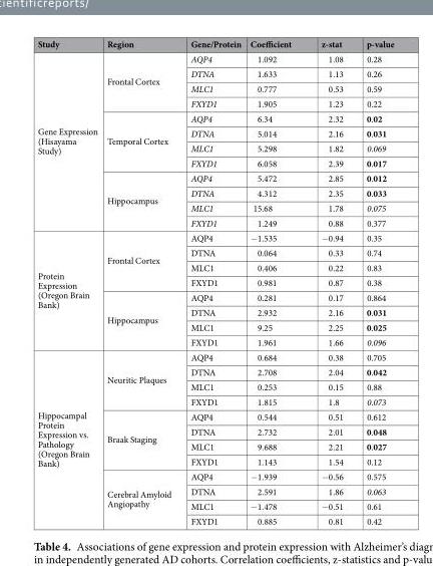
<table><thead><tr><td>Study</td><td>Region</td><td>Gene/Protein</td><td>Coefficient</td><td>z-stat</td><td>p-value</td></tr></thead><tbody><tr><td rowspan="12">Gene Expression (Hisayama Study)</td><td rowspan="4">Frontal Cortex</td><td>AQP4</td><td>1.092</td><td>1.08</td><td>0.28</td></tr><tr><td>DTNA</td><td>1.633</td><td>1.13</td><td>0.26</td></tr><tr><td>MLC1</td><td>0.777</td><td>0.53</td><td>0.59</td></tr><tr><td>FXYD1</td><td>1.905</td><td>1.23</td><td>0.22</td></tr><tr><td rowspan="4">Temporal Cortex</td><td>AQP4</td><td>6.34</td><td>2.32</td><td>0.02</td></tr><tr><td>DTNA</td><td>5.014</td><td>2.16</td><td>0.031</td></tr><tr><td>MLC1</td><td>5.298</td><td>1.82</td><td>0.069</td></tr><tr><td>FXYD1</td><td>6.058</td><td>2.39</td><td>0.017</td></tr><tr><td rowspan="4">Hippocampus</td><td>AQP4</td><td>5.472</td><td>2.85</td><td>0.012</td></tr><tr><td>DTNA</td><td>4.312</td><td>2.35</td><td>0.033</td></tr><tr><td>MLC1</td><td>15.68</td><td>1.78</td><td>0.075</td></tr><tr><td>FXYD1</td><td>1.249</td><td>0.88</td><td>0.377</td></tr><tr><td rowspan="8">Protein Expression (Oregon Brain Bank)</td><td rowspan="4">Frontal Cortex</td><td>AQP4</td><td>−1.535</td><td>−0.94</td><td>0.35</td></tr><tr><td>DTNA</td><td>0.064</td><td>0.33</td><td>0.74</td></tr><tr><td>MLC1</td><td>0.406</td><td>0.22</td><td>0.83</td></tr><tr><td>FXYD1</td><td>0.981</td><td>0.87</td><td>0.38</td></tr><tr><td rowspan="4">Hippocampus</td><td>AQP4</td><td>0.281</td><td>0.17</td><td>0.864</td></tr><tr><td>DTNA</td><td>2.932</td><td>2.16</td><td>0.031</td></tr><tr><td>MLC1</td><td>9.25</td><td>2.25</td><td>0.025</td></tr><tr><td>FXYD1</td><td>1.961</td><td>1.66</td><td>0.096</td></tr><tr><td rowspan="12">Hippocampal Protein Expression vs. Pathology (Oregon Brain Bank)</td><td rowspan="4">Neuritic Plaques</td><td>AQP4</td><td>0.684</td><td>0.38</td><td>0.705</td></tr><tr><td>DTNA</td><td>2.708</td><td>2.04</td><td>0.042</td></tr><tr><td>MLC1</td><td>0.253</td><td>0.15</td><td>0.88</td></tr><tr><td>FXYD1</td><td>1.815</td><td>1.8</td><td>0.073</td></tr><tr><td rowspan="4">Braak Staging</td><td>AQP4</td><td>0.544</td><td>0.51</td><td>0.612</td></tr><tr><td>DTNA</td><td>2.732</td><td>2.01</td><td>0.048</td></tr><tr><td>MLC1</td><td>9.688</td><td>2.21</td><td>0.027</td></tr><tr><td>FXYD1</td><td>1.143</td><td>1.54</td><td>0.12</td></tr><tr><td rowspan="4">Cerebral Amyloid Angiopathy</td><td>AQP4</td><td>−1.939</td><td>−0.56</td><td>0.575</td></tr><tr><td>DTNA</td><td>2.591</td><td>1.86</td><td>0.063</td></tr><tr><td>MLC1</td><td>−1.478</td><td>−0.51</td><td>0.61</td></tr><tr><td>FXYD1</td><td>0.885</td><td>0.81</td><td>0.42</td></tr></tbody></table>